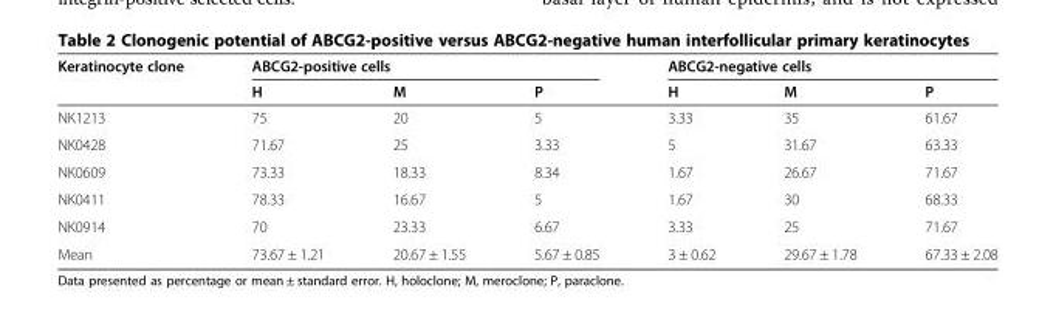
<table><thead><tr><td rowspan="2">Keratinocyte clone</td><td colspan="3">ABCG2-positive cells</td><td colspan="3">ABCG2-negative cells</td></tr><tr><td>H</td><td>M</td><td>P</td><td>H</td><td>M</td><td>P</td></tr></thead><tbody><tr><td>NK1213</td><td>75</td><td>20</td><td>5</td><td>3.33</td><td>35</td><td>61.67</td></tr><tr><td>NK0428</td><td>71.67</td><td>25</td><td>3.33</td><td>5</td><td>31.67</td><td>63.33</td></tr><tr><td>NK0609</td><td>73.33</td><td>18.33</td><td>8.34</td><td>1.67</td><td>26.67</td><td>71.67</td></tr><tr><td>NK0411</td><td>78.33</td><td>16.67</td><td>5</td><td>1.67</td><td>30</td><td>68.33</td></tr><tr><td>NK0914</td><td>70</td><td>23.33</td><td>6.67</td><td>3.33</td><td>25</td><td>71.67</td></tr><tr><td>Mean</td><td>73.67 ± 1.21</td><td>20.67 ± 1.55</td><td>5.67 ± 0.85</td><td>3 ± 0.62</td><td>29.67 ± 1.78</td><td>67.33 ± 2.08</td></tr></tbody></table>